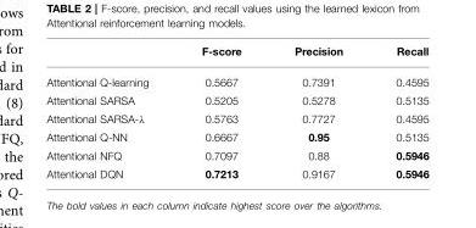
<table><thead><tr><td></td><td>F-score</td><td>Precision</td><td>Recall</td></tr></thead><tbody><tr><td>Attentional Q-learning</td><td>0.5667</td><td>0.7391</td><td>0.4595</td></tr><tr><td>Attentional SARSA</td><td>0.5205</td><td>0.5278</td><td>0.5135</td></tr><tr><td>Attentional SARSA-λ</td><td>0.5763</td><td>0.7727</td><td>0.4595</td></tr><tr><td>Attentional Q-NN</td><td>0.6667</td><td>0.95</td><td>0.5135</td></tr><tr><td>Attentional NFQ</td><td>0.7097</td><td>0.88</td><td>0.5946</td></tr><tr><td>Attentional DQN</td><td>0.7213</td><td>0.9167</td><td>0.5946</td></tr></tbody></table>